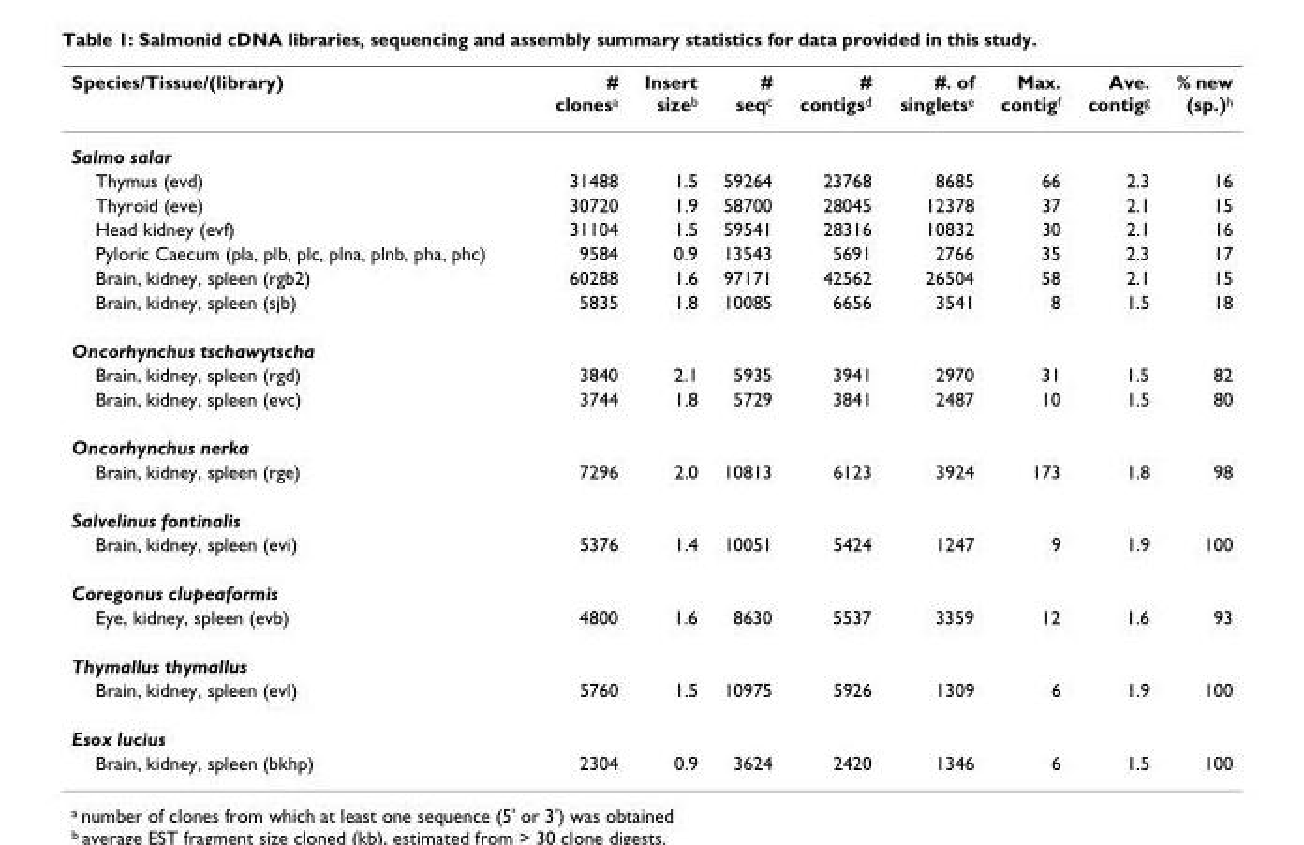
<table><thead><tr><td>Species/Tissue/(library)</td><td># clones<sup>a</sup></td><td>Insert size<sup>b</sup></td><td># seq<sup>c</sup></td><td># contigs<sup>d</sup></td><td>#. of singlets<sup>e</sup></td><td>Max. contig<sup>f</sup></td><td>Ave. contig<sup>g</sup></td><td>% new (sp.)<sup>h</sup></td></tr></thead><tbody><tr><td colspan="9">Salmo salar</td></tr><tr><td>Thymus (evd)</td><td>31488</td><td>1.5</td><td>59264</td><td>23768</td><td>8685</td><td>66</td><td>2.3</td><td>16</td></tr><tr><td>Thyroid (eve)</td><td>30720</td><td>1.9</td><td>58700</td><td>28045</td><td>12378</td><td>37</td><td>2.1</td><td>15</td></tr><tr><td>Head kidney (evf)</td><td>31104</td><td>1.5</td><td>59541</td><td>28316</td><td>10832</td><td>30</td><td>2.1</td><td>16</td></tr><tr><td>Pyloric Caecum (pla, plb, plc, plna, plnb, pha, phc)</td><td>9584</td><td>0.9</td><td>13543</td><td>5691</td><td>2766</td><td>35</td><td>2.3</td><td>17</td></tr><tr><td>Brain, kidney, spleen (rgb2)</td><td>60288</td><td>1.6</td><td>97171</td><td>42562</td><td>26504</td><td>58</td><td>2.1</td><td>15</td></tr><tr><td>Brain, kidney, spleen (sjb)</td><td>5835</td><td>1.8</td><td>10085</td><td>6656</td><td>3541</td><td>8</td><td>1.5</td><td>18</td></tr><tr><td colspan="9">Oncorhynchus tschawytscha</td></tr><tr><td>Brain, kidney, spleen (rgd)</td><td>3840</td><td>2.1</td><td>5935</td><td>3941</td><td>2970</td><td>31</td><td>1.5</td><td>82</td></tr><tr><td>Brain, kidney, spleen (evc)</td><td>3744</td><td>1.8</td><td>5729</td><td>3841</td><td>2487</td><td>10</td><td>1.5</td><td>80</td></tr><tr><td colspan="9">Oncorhynchus nerka</td></tr><tr><td>Brain, kidney, spleen (rge)</td><td>7296</td><td>2.0</td><td>10813</td><td>6123</td><td>3924</td><td>173</td><td>1.8</td><td>98</td></tr><tr><td colspan="9">Salvelinus fontinalis</td></tr><tr><td>Brain, kidney, spleen (evi)</td><td>5376</td><td>1.4</td><td>10051</td><td>5424</td><td>1247</td><td>9</td><td>1.9</td><td>100</td></tr><tr><td colspan="9">Coregonus clupeaformis</td></tr><tr><td>Eye, kidney, spleen (evb)</td><td>4800</td><td>1.6</td><td>8630</td><td>5537</td><td>3359</td><td>12</td><td>1.6</td><td>93</td></tr><tr><td colspan="9">Thymallus thymallus</td></tr><tr><td>Brain, kidney, spleen (evl)</td><td>5760</td><td>1.5</td><td>10975</td><td>5926</td><td>1309</td><td>6</td><td>1.9</td><td>100</td></tr><tr><td colspan="9">Esox lucius</td></tr><tr><td>Brain, kidney, spleen (bkhp)</td><td>2304</td><td>0.9</td><td>3624</td><td>2420</td><td>1346</td><td>6</td><td>1.5</td><td>100</td></tr></tbody></table>